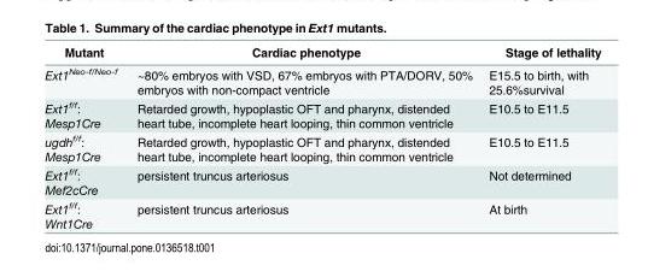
<table><thead><tr><td>Mutant</td><td>Cardiac phenotype</td><td>Stage of lethality</td></tr></thead><tbody><tr><td>Ext1<sup>Neo-f/Neo-f</sup></td><td>~80% embryos with VSD, 67% embryos with PTA/DORV, 50% embryos with non-compact ventricle</td><td>E15.5 to birth, with 25.6%survival</td></tr><tr><td>Ext1<sup>f/f</sup>: Mesp1Cre</td><td>Retarded growth, hypoplastic OFT and pharynx, distended heart tube, incomplete heart looping, thin common ventricle</td><td>E10.5 to E11.5</td></tr><tr><td>ugdh<sup>f/f</sup>: Mesp1Cre</td><td>Retarded growth, hypoplastic OFT and pharynx, distended heart tube, incomplete heart looping, thin common ventricle</td><td>E10.5 to E11.5</td></tr><tr><td>Ext1<sup>f/f</sup>: Mef2cCre</td><td>persistent truncus arteriosus</td><td>Not determined</td></tr><tr><td>Ext1<sup>f/f</sup>: Wnt1Cre</td><td>persistent truncus arteriosus</td><td>At birth</td></tr></tbody></table>